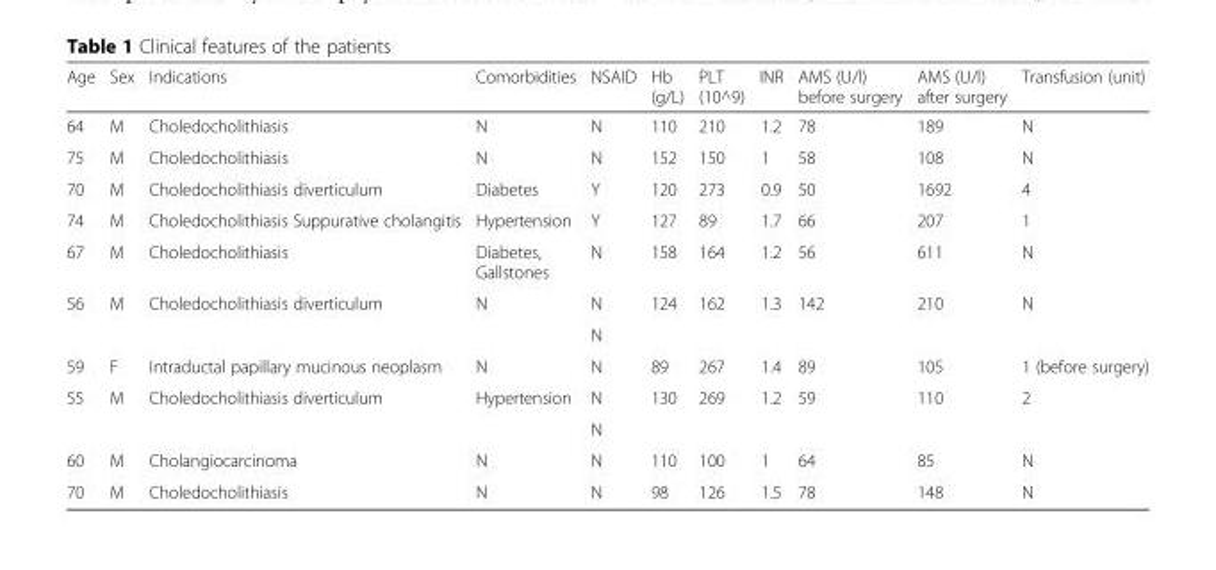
<table><thead><tr><td>Age</td><td>Sex</td><td>Indications</td><td>Comorbidities</td><td>NSAID</td><td>Hb (g/L)</td><td>PLT (10^9)</td><td>INR</td><td>AMS (U/l) before surgery</td><td>AMS (U/l) after surgery</td><td>Transfusion (unit)</td></tr></thead><tbody><tr><td>64</td><td>M</td><td>Choledocholithiasis</td><td>N</td><td>N</td><td>110</td><td>210</td><td>1.2</td><td>78</td><td>189</td><td>N</td></tr><tr><td>75</td><td>M</td><td>Choledocholithiasis</td><td>N</td><td>N</td><td>152</td><td>150</td><td>1</td><td>58</td><td>108</td><td>N</td></tr><tr><td>70</td><td>M</td><td>Choledocholithiasis diverticulum</td><td>Diabetes</td><td>Y</td><td>120</td><td>273</td><td>0.9</td><td>50</td><td>1692</td><td>4</td></tr><tr><td>74</td><td>M</td><td>Choledocholithiasis Suppurative cholangitis</td><td>Hypertension</td><td>Y</td><td>127</td><td>89</td><td>1.7</td><td>66</td><td>207</td><td>1</td></tr><tr><td>67</td><td>M</td><td>Choledocholithiasis</td><td>Diabetes, Gallstones</td><td>N</td><td>158</td><td>164</td><td>1.2</td><td>56</td><td>611</td><td>N</td></tr><tr><td rowspan="2">56</td><td rowspan="2">M</td><td rowspan="2">Choledocholithiasis diverticulum</td><td rowspan="2">N</td><td>N</td><td rowspan="2">124</td><td rowspan="2">162</td><td rowspan="2">1.3</td><td rowspan="2">142</td><td rowspan="2">210</td><td rowspan="2">N</td></tr><tr><td>N</td></tr><tr><td>59</td><td>F</td><td>Intraductal papillary mucinous neoplasm</td><td>N</td><td>N</td><td>89</td><td>267</td><td>1.4</td><td>89</td><td>105</td><td>1 (before surgery)</td></tr><tr><td rowspan="2">55</td><td rowspan="2">M</td><td rowspan="2">Choledocholithiasis diverticulum</td><td rowspan="2">Hypertension</td><td>N</td><td rowspan="2">130</td><td rowspan="2">269</td><td rowspan="2">1.2</td><td rowspan="2">59</td><td rowspan="2">110</td><td rowspan="2">2</td></tr><tr><td>N</td></tr><tr><td>60</td><td>M</td><td>Cholangiocarcinoma</td><td>N</td><td>N</td><td>110</td><td>100</td><td>1</td><td>64</td><td>85</td><td>N</td></tr><tr><td>70</td><td>M</td><td>Choledocholithiasis</td><td>N</td><td>N</td><td>98</td><td>126</td><td>1.5</td><td>78</td><td>148</td><td>N</td></tr></tbody></table>